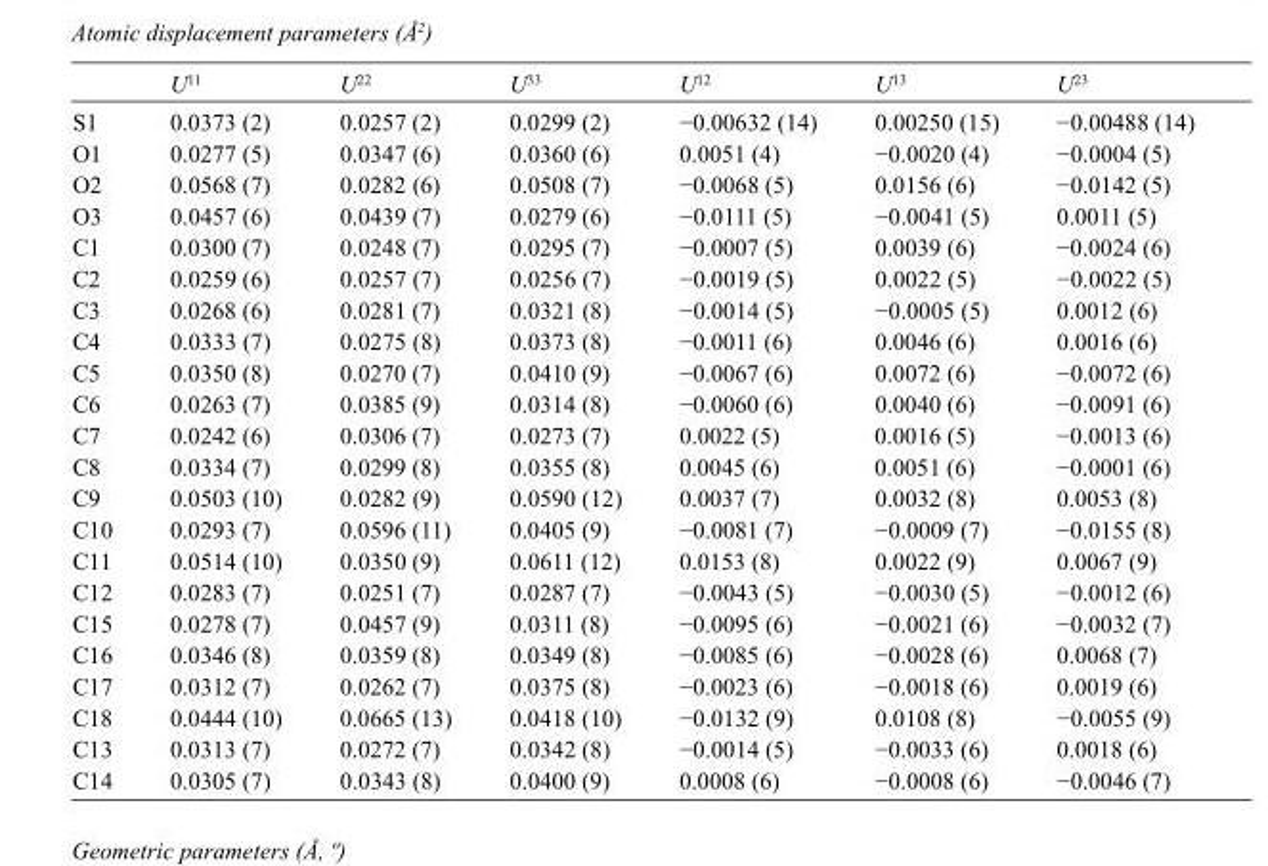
<table><thead><tr><td></td><td>U<sup>11</sup></td><td>U<sup>22</sup></td><td>U<sup>33</sup></td><td>U<sup>12</sup></td><td>U<sup>13</sup></td><td>U<sup>23</sup></td></tr></thead><tbody><tr><td>S1</td><td>0.0373 (2)</td><td>0.0257 (2)</td><td>0.0299 (2)</td><td>−0.00632 (14)</td><td>0.00250 (15)</td><td>−0.00488 (14)</td></tr><tr><td>O1</td><td>0.0277 (5)</td><td>0.0347 (6)</td><td>0.0360 (6)</td><td>0.0051 (4)</td><td>−0.0020 (4)</td><td>−0.0004 (5)</td></tr><tr><td>O2</td><td>0.0568 (7)</td><td>0.0282 (6)</td><td>0.0508 (7)</td><td>−0.0068 (5)</td><td>0.0156 (6)</td><td>−0.0142 (5)</td></tr><tr><td>O3</td><td>0.0457 (6)</td><td>0.0439 (7)</td><td>0.0279 (6)</td><td>−0.0111 (5)</td><td>−0.0041 (5)</td><td>0.0011 (5)</td></tr><tr><td>C1</td><td>0.0300 (7)</td><td>0.0248 (7)</td><td>0.0295 (7)</td><td>−0.0007 (5)</td><td>0.0039 (6)</td><td>−0.0024 (6)</td></tr><tr><td>C2</td><td>0.0259 (6)</td><td>0.0257 (7)</td><td>0.0256 (7)</td><td>−0.0019 (5)</td><td>0.0022 (5)</td><td>−0.0022 (5)</td></tr><tr><td>C3</td><td>0.0268 (6)</td><td>0.0281 (7)</td><td>0.0321 (8)</td><td>−0.0014 (5)</td><td>−0.0005 (5)</td><td>0.0012 (6)</td></tr><tr><td>C4</td><td>0.0333 (7)</td><td>0.0275 (8)</td><td>0.0373 (8)</td><td>−0.0011 (6)</td><td>0.0046 (6)</td><td>0.0016 (6)</td></tr><tr><td>C5</td><td>0.0350 (8)</td><td>0.0270 (7)</td><td>0.0410 (9)</td><td>−0.0067 (6)</td><td>0.0072 (6)</td><td>−0.0072 (6)</td></tr><tr><td>C6</td><td>0.0263 (7)</td><td>0.0385 (9)</td><td>0.0314 (8)</td><td>−0.0060 (6)</td><td>0.0040 (6)</td><td>−0.0091 (6)</td></tr><tr><td>C7</td><td>0.0242 (6)</td><td>0.0306 (7)</td><td>0.0273 (7)</td><td>0.0022 (5)</td><td>0.0016 (5)</td><td>−0.0013 (6)</td></tr><tr><td>C8</td><td>0.0334 (7)</td><td>0.0299 (8)</td><td>0.0355 (8)</td><td>0.0045 (6)</td><td>0.0051 (6)</td><td>−0.0001 (6)</td></tr><tr><td>C9</td><td>0.0503 (10)</td><td>0.0282 (9)</td><td>0.0590 (12)</td><td>0.0037 (7)</td><td>0.0032 (8)</td><td>0.0053 (8)</td></tr><tr><td>C10</td><td>0.0293 (7)</td><td>0.0596 (11)</td><td>0.0405 (9)</td><td>−0.0081 (7)</td><td>−0.0009 (7)</td><td>−0.0155 (8)</td></tr><tr><td>C11</td><td>0.0514 (10)</td><td>0.0350 (9)</td><td>0.0611 (12)</td><td>0.0153 (8)</td><td>0.0022 (9)</td><td>0.0067 (9)</td></tr><tr><td>C12</td><td>0.0283 (7)</td><td>0.0251 (7)</td><td>0.0287 (7)</td><td>−0.0043 (5)</td><td>−0.0030 (5)</td><td>−0.0012 (6)</td></tr><tr><td>C15</td><td>0.0278 (7)</td><td>0.0457 (9)</td><td>0.0311 (8)</td><td>−0.0095 (6)</td><td>−0.0021 (6)</td><td>−0.0032 (7)</td></tr><tr><td>C16</td><td>0.0346 (8)</td><td>0.0359 (8)</td><td>0.0349 (8)</td><td>−0.0085 (6)</td><td>−0.0028 (6)</td><td>0.0068 (7)</td></tr><tr><td>C17</td><td>0.0312 (7)</td><td>0.0262 (7)</td><td>0.0375 (8)</td><td>−0.0023 (6)</td><td>−0.0018 (6)</td><td>0.0019 (6)</td></tr><tr><td>C18</td><td>0.0444 (10)</td><td>0.0665 (13)</td><td>0.0418 (10)</td><td>−0.0132 (9)</td><td>0.0108 (8)</td><td>−0.0055 (9)</td></tr><tr><td>C13</td><td>0.0313 (7)</td><td>0.0272 (7)</td><td>0.0342 (8)</td><td>−0.0014 (5)</td><td>−0.0033 (6)</td><td>0.0018 (6)</td></tr><tr><td>C14</td><td>0.0305 (7)</td><td>0.0343 (8)</td><td>0.0400 (9)</td><td>0.0008 (6)</td><td>−0.0008 (6)</td><td>−0.0046 (7)</td></tr></tbody></table>